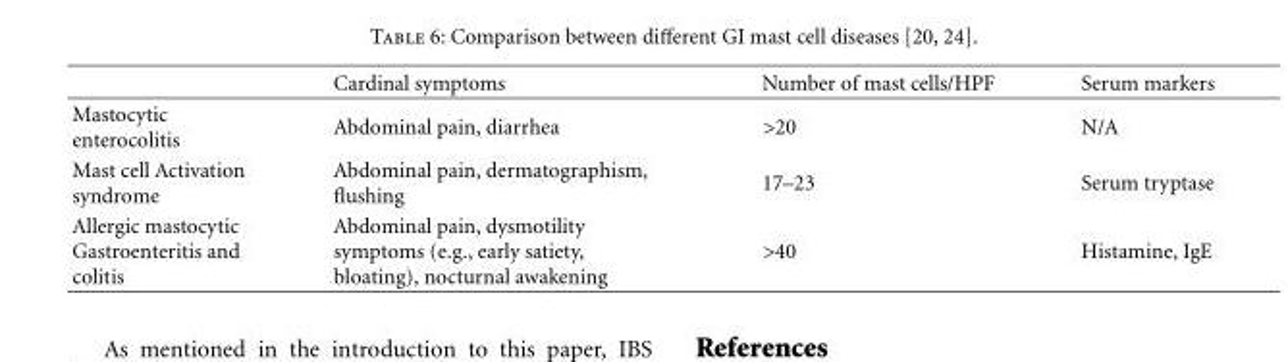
<table><thead><tr><td></td><td>Cardinal symptoms</td><td>Number of mast cells/HPF</td><td>Serum markers</td></tr></thead><tbody><tr><td>Mastocytic enterocolitis</td><td>Abdominal pain, diarrhea</td><td>&gt;20</td><td>N/A</td></tr><tr><td>Mast cell Activation syndrome</td><td>Abdominal pain, dermatographism, flushing</td><td>17–23</td><td>Serum tryptase</td></tr><tr><td>Allergic mastocytic Gastroenteritis and colitis</td><td>Abdominal pain, dysmotility symptoms (e.g., early satiety, bloating), nocturnal awakening</td><td>&gt;40</td><td>Histamine, IgE</td></tr></tbody></table>